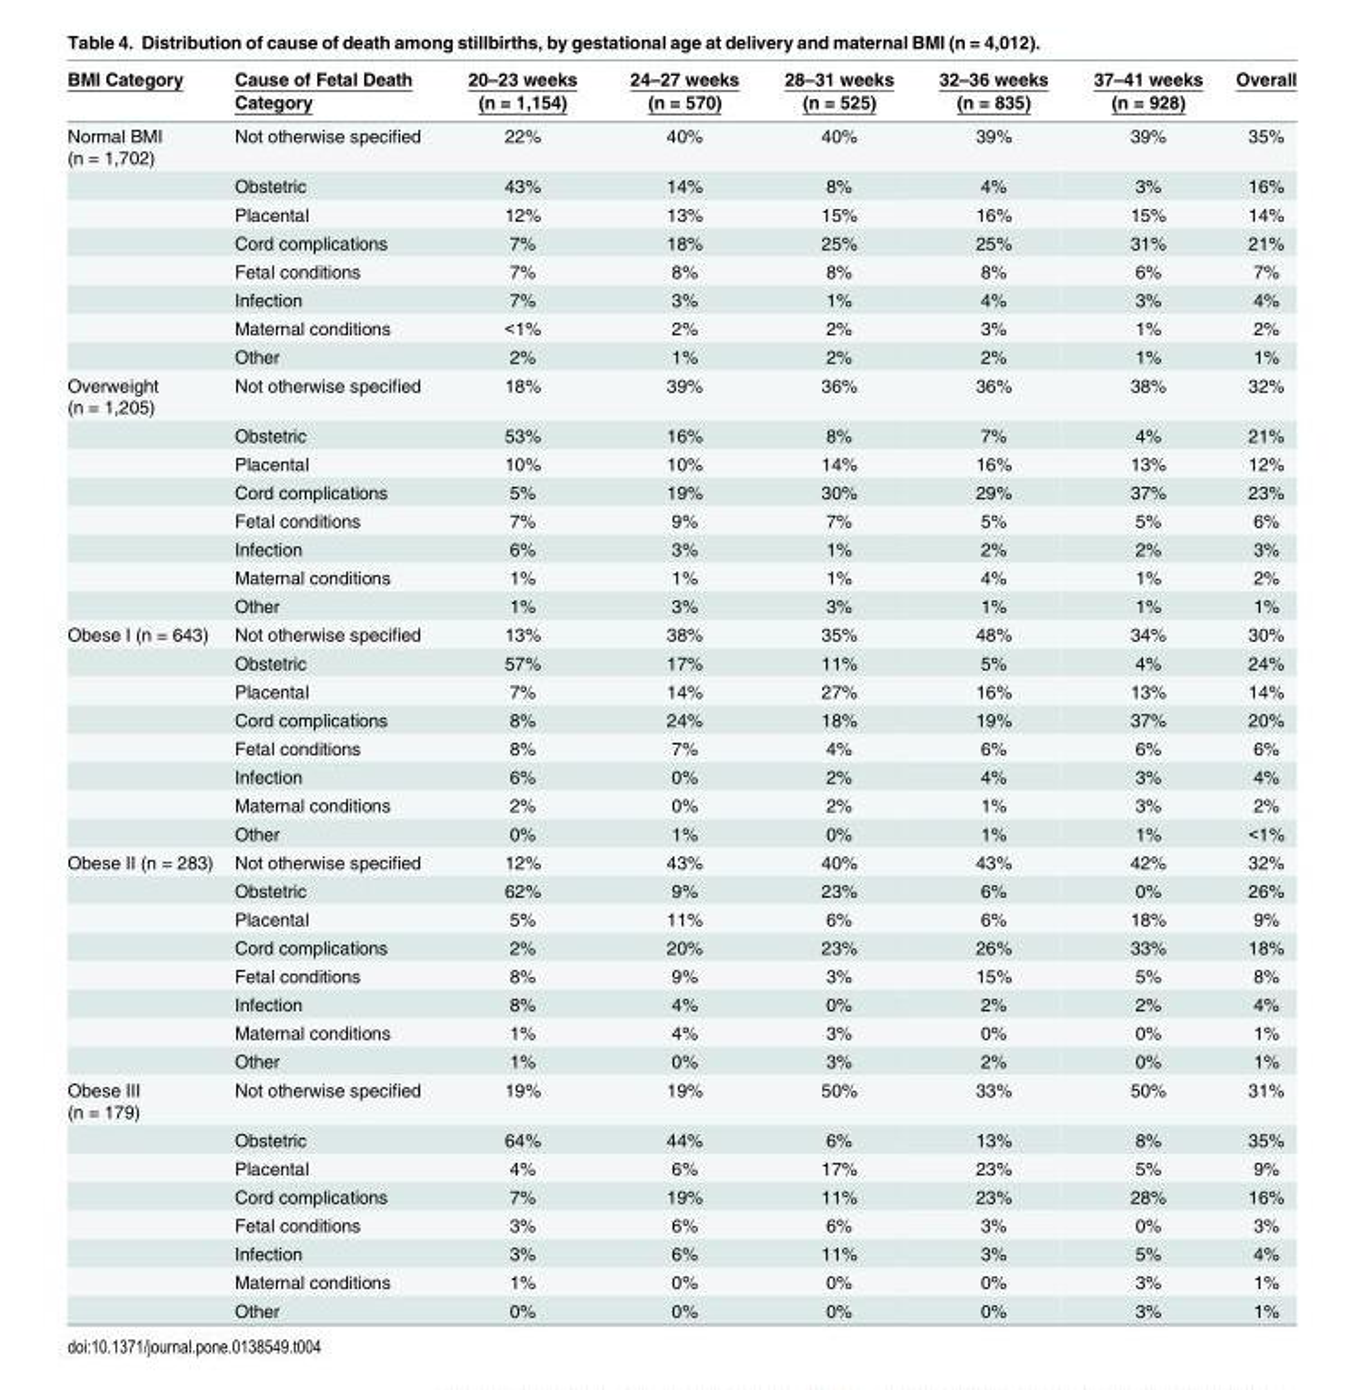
<table><thead><tr><td>BMI Category</td><td>Cause of Fetal Death Category</td><td>20–23 weeks (n = 1,154)</td><td>24–27 weeks (n = 570)</td><td>28–31 weeks (n = 525)</td><td>32–36 weeks (n = 835)</td><td>37–41 weeks (n = 928)</td><td>Overall</td></tr></thead><tbody><tr><td rowspan="8">Normal BMI (n = 1,702)</td><td>Not otherwise specified</td><td>22%</td><td>40%</td><td>40%</td><td>39%</td><td>39%</td><td>35%</td></tr><tr><td>Obstetric</td><td>43%</td><td>14%</td><td>8%</td><td>4%</td><td>3%</td><td>16%</td></tr><tr><td>Placental</td><td>12%</td><td>13%</td><td>15%</td><td>16%</td><td>15%</td><td>14%</td></tr><tr><td>Cord complications</td><td>7%</td><td>18%</td><td>25%</td><td>25%</td><td>31%</td><td>21%</td></tr><tr><td>Fetal conditions</td><td>7%</td><td>8%</td><td>8%</td><td>8%</td><td>6%</td><td>7%</td></tr><tr><td>Infection</td><td>7%</td><td>3%</td><td>1%</td><td>4%</td><td>3%</td><td>4%</td></tr><tr><td>Maternal conditions</td><td>&lt;1%</td><td>2%</td><td>2%</td><td>3%</td><td>1%</td><td>2%</td></tr><tr><td>Other</td><td>2%</td><td>1%</td><td>2%</td><td>2%</td><td>1%</td><td>1%</td></tr><tr><td rowspan="8">Overweight (n = 1,205)</td><td>Not otherwise specified</td><td>18%</td><td>39%</td><td>36%</td><td>36%</td><td>38%</td><td>32%</td></tr><tr><td>Obstetric</td><td>53%</td><td>16%</td><td>8%</td><td>7%</td><td>4%</td><td>21%</td></tr><tr><td>Placental</td><td>10%</td><td>10%</td><td>14%</td><td>16%</td><td>13%</td><td>12%</td></tr><tr><td>Cord complications</td><td>5%</td><td>19%</td><td>30%</td><td>29%</td><td>37%</td><td>23%</td></tr><tr><td>Fetal conditions</td><td>7%</td><td>9%</td><td>7%</td><td>5%</td><td>5%</td><td>6%</td></tr><tr><td>Infection</td><td>6%</td><td>3%</td><td>1%</td><td>2%</td><td>2%</td><td>3%</td></tr><tr><td>Maternal conditions</td><td>1%</td><td>1%</td><td>1%</td><td>4%</td><td>1%</td><td>2%</td></tr><tr><td>Other</td><td>1%</td><td>3%</td><td>3%</td><td>1%</td><td>1%</td><td>1%</td></tr><tr><td rowspan="8">Obese I (n = 643)</td><td>Not otherwise specified</td><td>13%</td><td>38%</td><td>35%</td><td>48%</td><td>34%</td><td>30%</td></tr><tr><td>Obstetric</td><td>57%</td><td>17%</td><td>11%</td><td>5%</td><td>4%</td><td>24%</td></tr><tr><td>Placental</td><td>7%</td><td>14%</td><td>27%</td><td>16%</td><td>13%</td><td>14%</td></tr><tr><td>Cord complications</td><td>8%</td><td>24%</td><td>18%</td><td>19%</td><td>37%</td><td>20%</td></tr><tr><td>Fetal conditions</td><td>8%</td><td>7%</td><td>4%</td><td>6%</td><td>6%</td><td>6%</td></tr><tr><td>Infection</td><td>6%</td><td>0%</td><td>2%</td><td>4%</td><td>3%</td><td>4%</td></tr><tr><td>Maternal conditions</td><td>2%</td><td>0%</td><td>2%</td><td>1%</td><td>3%</td><td>2%</td></tr><tr><td>Other</td><td>0%</td><td>1%</td><td>0%</td><td>1%</td><td>1%</td><td>&lt;1%</td></tr><tr><td rowspan="8">Obese II (n = 283)</td><td>Not otherwise specified</td><td>12%</td><td>43%</td><td>40%</td><td>43%</td><td>42%</td><td>32%</td></tr><tr><td>Obstetric</td><td>62%</td><td>9%</td><td>23%</td><td>6%</td><td>0%</td><td>26%</td></tr><tr><td>Placental</td><td>5%</td><td>11%</td><td>6%</td><td>6%</td><td>18%</td><td>9%</td></tr><tr><td>Cord complications</td><td>2%</td><td>20%</td><td>23%</td><td>26%</td><td>33%</td><td>18%</td></tr><tr><td>Fetal conditions</td><td>8%</td><td>9%</td><td>3%</td><td>15%</td><td>5%</td><td>8%</td></tr><tr><td>Infection</td><td>8%</td><td>4%</td><td>0%</td><td>2%</td><td>2%</td><td>4%</td></tr><tr><td>Maternal conditions</td><td>1%</td><td>4%</td><td>3%</td><td>0%</td><td>0%</td><td>1%</td></tr><tr><td>Other</td><td>1%</td><td>0%</td><td>3%</td><td>2%</td><td>0%</td><td>1%</td></tr><tr><td rowspan="8">Obese III (n = 179)</td><td>Not otherwise specified</td><td>19%</td><td>19%</td><td>50%</td><td>33%</td><td>50%</td><td>31%</td></tr><tr><td>Obstetric</td><td>64%</td><td>44%</td><td>6%</td><td>13%</td><td>8%</td><td>35%</td></tr><tr><td>Placental</td><td>4%</td><td>6%</td><td>17%</td><td>23%</td><td>5%</td><td>9%</td></tr><tr><td>Cord complications</td><td>7%</td><td>19%</td><td>11%</td><td>23%</td><td>28%</td><td>16%</td></tr><tr><td>Fetal conditions</td><td>3%</td><td>6%</td><td>6%</td><td>3%</td><td>0%</td><td>3%</td></tr><tr><td>Infection</td><td>3%</td><td>6%</td><td>11%</td><td>3%</td><td>5%</td><td>4%</td></tr><tr><td>Maternal conditions</td><td>1%</td><td>0%</td><td>0%</td><td>0%</td><td>3%</td><td>1%</td></tr><tr><td>Other</td><td>0%</td><td>0%</td><td>0%</td><td>0%</td><td>3%</td><td>1%</td></tr></tbody></table>